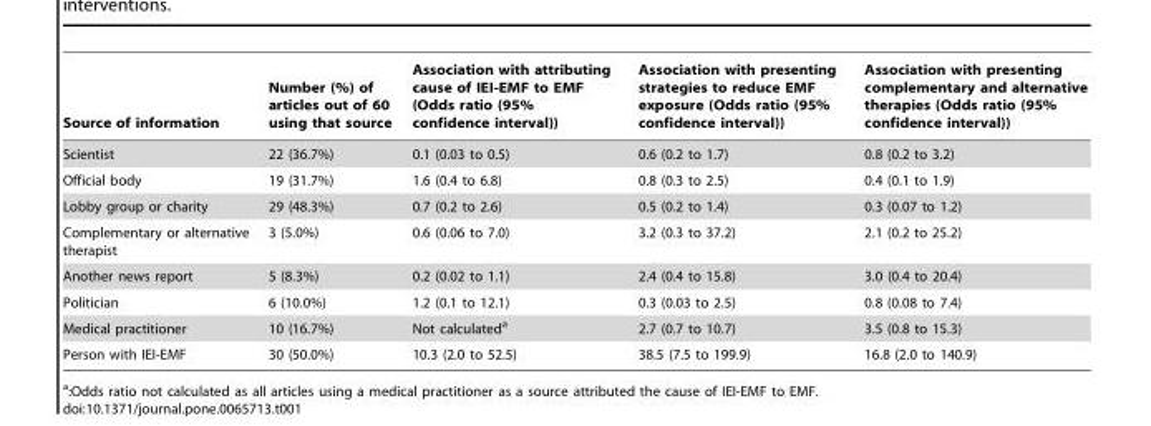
<table><thead><tr><td>Source of information</td><td>Number (%) of articles out of 60 using that source</td><td>Association with attributing cause of IEI-EMF to EMF (Odds ratio (95% confidence interval))</td><td>Association with presenting strategies to reduce EMF exposure (Odds ratio (95% confidence interval))</td><td>Association with presenting complementary and alternative therapies (Odds ratio (95% confidence interval))</td></tr></thead><tbody><tr><td>Scientist</td><td>22 (36.7%)</td><td>0.1 (0.03 to 0.5)</td><td>0.6 (0.2 to 1.7)</td><td>0.8 (0.2 to 3.2)</td></tr><tr><td>Official body</td><td>19 (31.7%)</td><td>1.6 (0.4 to 6.8)</td><td>0.8 (0.3 to 2.5)</td><td>0.4 (0.1 to 1.9)</td></tr><tr><td>Lobby group or charity</td><td>29 (48.3%)</td><td>0.7 (0.2 to 2.6)</td><td>0.5 (0.2 to 1.4)</td><td>0.3 (0.07 to 1.2)</td></tr><tr><td>Complementary or alternative therapist</td><td>3 (5.0%)</td><td>0.6 (0.06 to 7.0)</td><td>3.2 (0.3 to 37.2)</td><td>2.1 (0.2 to 25.2)</td></tr><tr><td>Another news report</td><td>5 (8.3%)</td><td>0.2 (0.02 to 1.1)</td><td>2.4 (0.4 to 15.8)</td><td>3.0 (0.4 to 20.4)</td></tr><tr><td>Politician</td><td>6 (10.0%)</td><td>1.2 (0.1 to 12.1)</td><td>0.3 (0.03 to 2.5)</td><td>0.8 (0.08 to 7.4)</td></tr><tr><td>Medical practitioner</td><td>10 (16.7%)</td><td>Not calculated<sup>a</sup></td><td>2.7 (0.7 to 10.7)</td><td>3.5 (0.8 to 15.3)</td></tr><tr><td>Person with IEI-EMF</td><td>30 (50.0%)</td><td>10.3 (2.0 to 52.5)</td><td>38.5 (7.5 to 199.9)</td><td>16.8 (2.0 to 140.9)</td></tr></tbody></table>